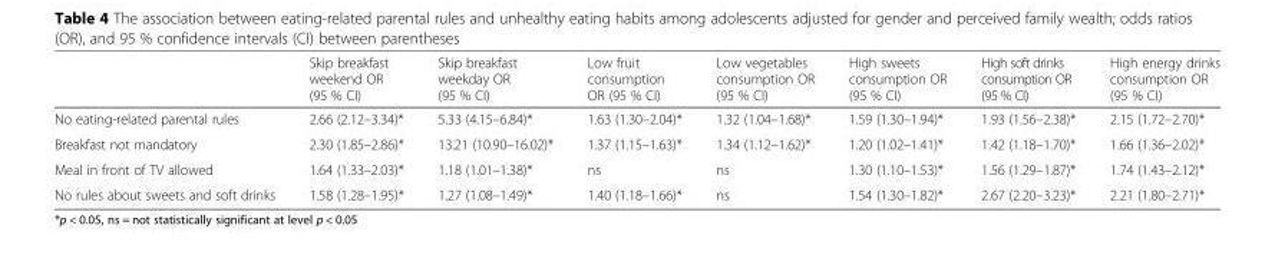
<table><thead><tr><td></td><td>Skip breakfast weekend OR (95 % CI)</td><td>Skip breakfast weekday OR (95 % CI)</td><td>Low fruit consumption OR (95 % CI)</td><td>Low vegetables consumption OR (95 % CI)</td><td>High sweets consumption OR (95 % CI)</td><td>High soft drinks consumption OR (95 % CI)</td><td>High energy drinks consumption OR (95 % CI)</td></tr></thead><tbody><tr><td>No eating-related parental rules</td><td>2.66 (2.12–3.34)*</td><td>5.33 (4.15–6.84)*</td><td>1.63 (1.30–2.04)*</td><td>1.32 (1.04–1.68)*</td><td>1.59 (1.30–1.94)*</td><td>1.93 (1.56–2.38)*</td><td>2.15 (1.72–2.70)*</td></tr><tr><td>Breakfast not mandatory</td><td>2.30 (1.85–2.86)*</td><td>13.21 (10.90–16.02)*</td><td>1.37 (1.15–1.63)*</td><td>1.34 (1.12–1.62)*</td><td>1.20 (1.02–1.41)*</td><td>1.42 (1.18–1.70)*</td><td>1.66 (1.36–2.02)*</td></tr><tr><td>Meal in front of TV allowed</td><td>1.64 (1.33–2.03)*</td><td>1.18 (1.01–1.38)*</td><td>ns</td><td>ns</td><td>1.30 (1.10–1.53)*</td><td>1.56 (1.29–1.87)*</td><td>1.74 (1.43–2.12)*</td></tr><tr><td>No rules about sweets and soft drinks</td><td>1.58 (1.28–1.95)*</td><td>1.27 (1.08–1.49)*</td><td>1.40 (1.18–1.66)*</td><td>ns</td><td>1.54 (1.30–1.82)*</td><td>2.67 (2.20–3.23)*</td><td>2.21 (1.80–2.71)*</td></tr></tbody></table>